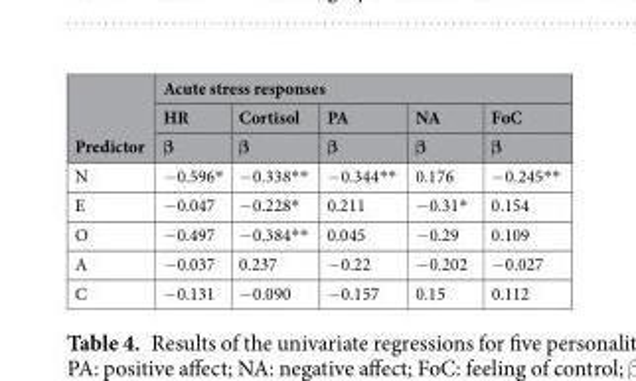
<table><thead><tr><td rowspan="3">Predictor</td><td colspan="5">Acute stress responses</td></tr><tr><td rowspan="2">HR β</td><td rowspan="2">Cortisol β</td><td rowspan="2">PA β</td><td rowspan="2">NA β</td><td rowspan="2">FoC β</td></tr><tr></tr></thead><tbody><tr><td>N</td><td>−0.596*</td><td>−0.338**</td><td>−0.344**</td><td>0.176</td><td>−0.245**</td></tr><tr><td>E</td><td>−0.047</td><td>−0.228*</td><td>0.211</td><td>−0.31*</td><td>0.154</td></tr><tr><td>O</td><td>−0.497</td><td>−0.384**</td><td>0.045</td><td>−0.29</td><td>0.109</td></tr><tr><td>A</td><td>−0.037</td><td>0.237</td><td>−0.22</td><td>−0.202</td><td>−0.027</td></tr><tr><td>C</td><td>−0.131</td><td>−0.090</td><td>−0.157</td><td>0.15</td><td>0.112</td></tr></tbody></table>